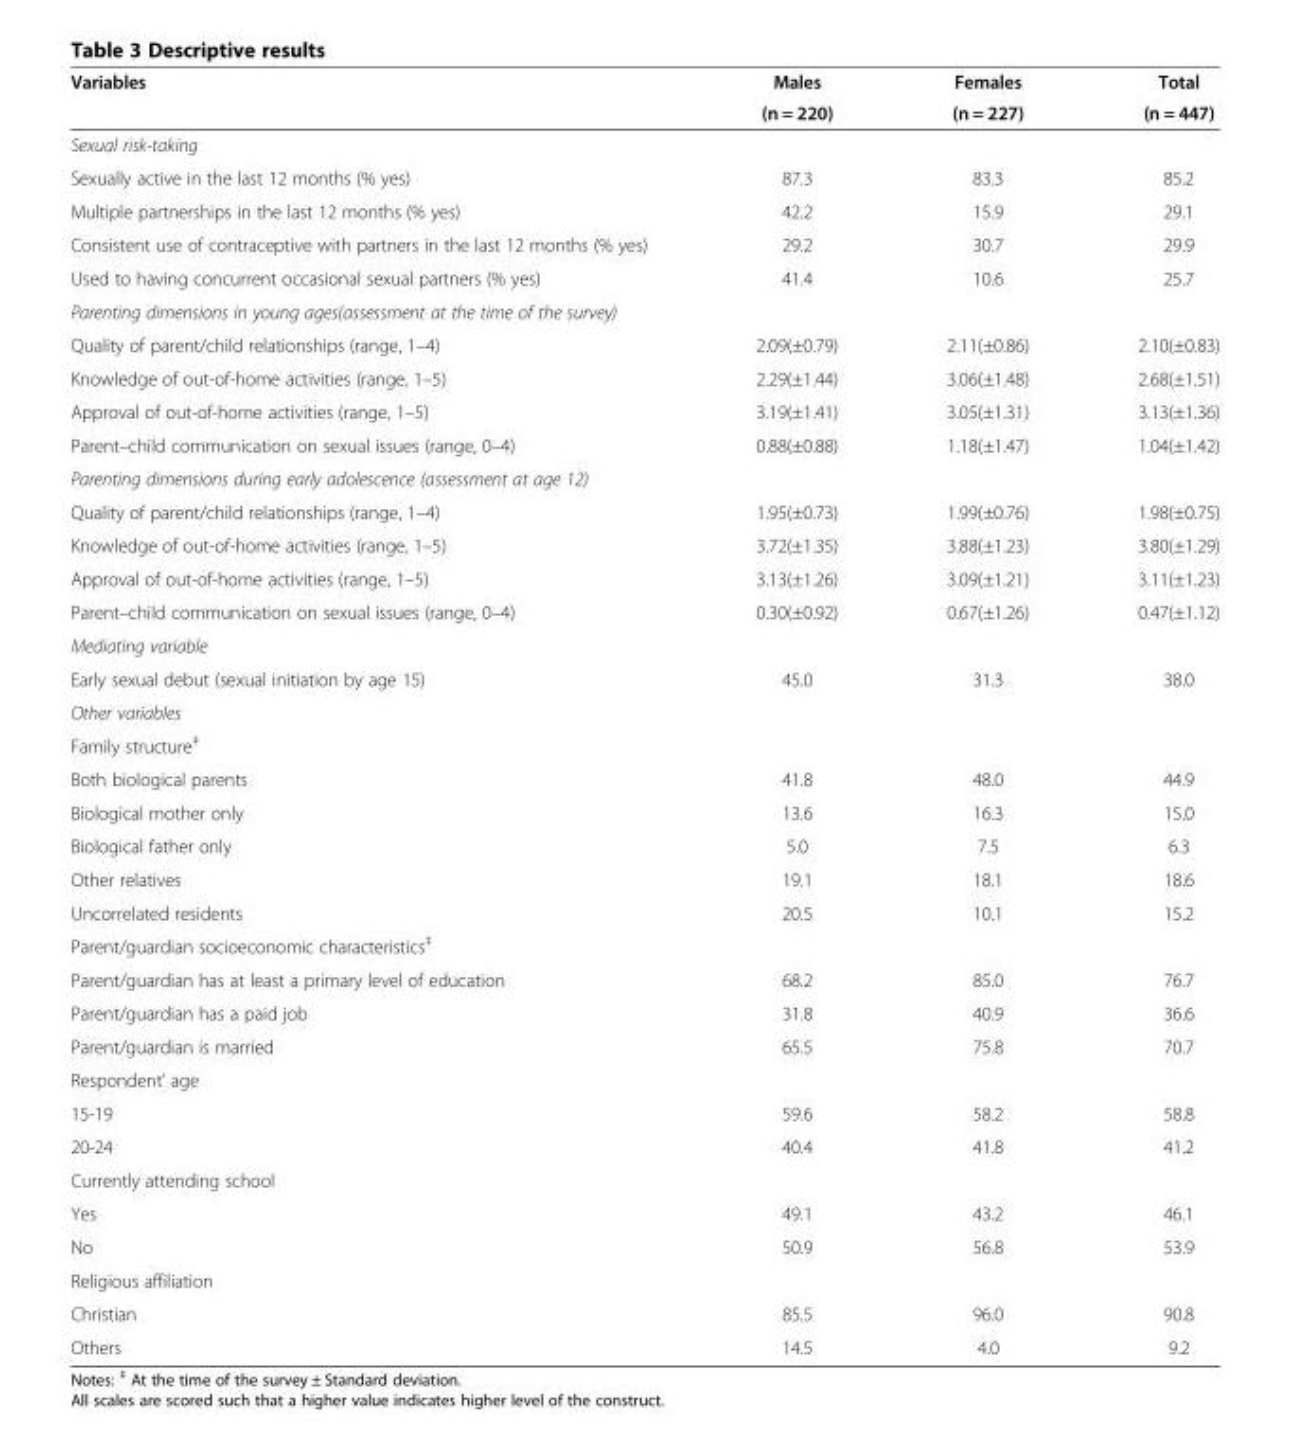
<table><thead><tr><td rowspan="2">Variables</td><td rowspan="2">Males (n = 220)</td><td rowspan="2">Females (n = 227)</td><td rowspan="2">Total (n = 447)</td></tr><tr></tr></thead><tbody><tr><td colspan="4">Sexual risk-taking</td></tr><tr><td>Sexually active in the last 12 months (% yes)</td><td>87.3</td><td>83.3</td><td>85.2</td></tr><tr><td>Multiple partnerships in the last 12 months (% yes)</td><td>42.2</td><td>15.9</td><td>29.1</td></tr><tr><td>Consistent use of contraceptive with partners in the last 12 months (% yes)</td><td>29.2</td><td>30.7</td><td>29.9</td></tr><tr><td>Used to having concurrent occasional sexual partners (% yes)</td><td>41.4</td><td>10.6</td><td>25.7</td></tr><tr><td colspan="4">Parenting dimensions in young ages(assessment at the time of the survey)</td></tr><tr><td>Quality of parent/child relationships (range, 1–4)</td><td>2.09(±0.79)</td><td>2.11(±0.86)</td><td>2.10(±0.83)</td></tr><tr><td>Knowledge of out-of-home activities (range, 1–5)</td><td>2.29(±1.44)</td><td>3.06(±1.48)</td><td>2.68(±1.51)</td></tr><tr><td>Approval of out-of-home activities (range, 1–5)</td><td>3.19(±1.41)</td><td>3.05(±1.31)</td><td>3.13(±1.36)</td></tr><tr><td>Parent–child communication on sexual issues (range, 0–4)</td><td>0.88(±0.88)</td><td>1.18(±1.47)</td><td>1.04(±1.42)</td></tr><tr><td colspan="4">Parenting dimensions during early adolescence (assessment at age 12)</td></tr><tr><td>Quality of parent/child relationships (range, 1–4)</td><td>1.95(±0.73)</td><td>1.99(±0.76)</td><td>1.98(±0.75)</td></tr><tr><td>Knowledge of out-of-home activities (range, 1–5)</td><td>3.72(±1.35)</td><td>3.88(±1.23)</td><td>3.80(±1.29)</td></tr><tr><td>Approval of out-of-home activities (range, 1–5)</td><td>3.13(±1.26)</td><td>3.09(±1.21)</td><td>3.11(±1.23)</td></tr><tr><td>Parent–child communication on sexual issues (range, 0–4)</td><td>0.30(±0.92)</td><td>0.67(±1.26)</td><td>0.47(±1.12)</td></tr><tr><td colspan="4">Mediating variable</td></tr><tr><td>Early sexual debut (sexual initiation by age 15)</td><td>45.0</td><td>31.3</td><td>38.0</td></tr><tr><td colspan="4">Other variables</td></tr><tr><td colspan="4">Family structure<sup>‡</sup></td></tr><tr><td>Both biological parents</td><td>41.8</td><td>48.0</td><td>44.9</td></tr><tr><td>Biological mother only</td><td>13.6</td><td>16.3</td><td>15.0</td></tr><tr><td>Biological father only</td><td>5.0</td><td>7.5</td><td>6.3</td></tr><tr><td>Other relatives</td><td>19.1</td><td>18.1</td><td>18.6</td></tr><tr><td>Uncorrelated residents</td><td>20.5</td><td>10.1</td><td>15.2</td></tr><tr><td colspan="4">Parent/guardian socioeconomic characteristics<sup>‡</sup></td></tr><tr><td>Parent/guardian has at least a primary level of education</td><td>68.2</td><td>85.0</td><td>76.7</td></tr><tr><td>Parent/guardian has a paid job</td><td>31.8</td><td>40.9</td><td>36.6</td></tr><tr><td>Parent/guardian is married</td><td>65.5</td><td>75.8</td><td>70.7</td></tr><tr><td colspan="4">Respondent’ age</td></tr><tr><td>15-19</td><td>59.6</td><td>58.2</td><td>58.8</td></tr><tr><td>20-24</td><td>40.4</td><td>41.8</td><td>41.2</td></tr><tr><td colspan="4">Currently attending school</td></tr><tr><td>Yes</td><td>49.1</td><td>43.2</td><td>46.1</td></tr><tr><td>No</td><td>50.9</td><td>56.8</td><td>53.9</td></tr><tr><td colspan="4">Religious affiliation</td></tr><tr><td>Christian</td><td>85.5</td><td>96.0</td><td>90.8</td></tr><tr><td>Others</td><td>14.5</td><td>4.0</td><td>9.2</td></tr></tbody></table>